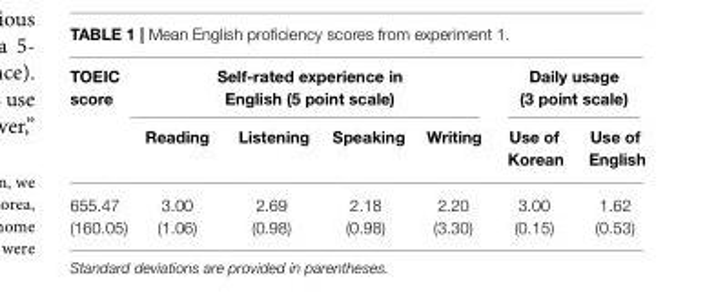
<table><thead><tr><td rowspan="2">TOEIC score</td><td colspan="4">Self-rated experience in English (5 point scale)</td><td colspan="2">Daily usage (3 point scale)</td></tr><tr><td>Reading</td><td>Listening</td><td>Speaking</td><td>Writing</td><td>Use of Korean</td><td>Use of English</td></tr></thead><tbody><tr><td>655.47 (160.05)</td><td>3.00 (1.06)</td><td>2.69 (0.98)</td><td>2.18 (0.98)</td><td>2.20 (3.30)</td><td>3.00 (0.15)</td><td>1.62 (0.53)</td></tr></tbody></table>